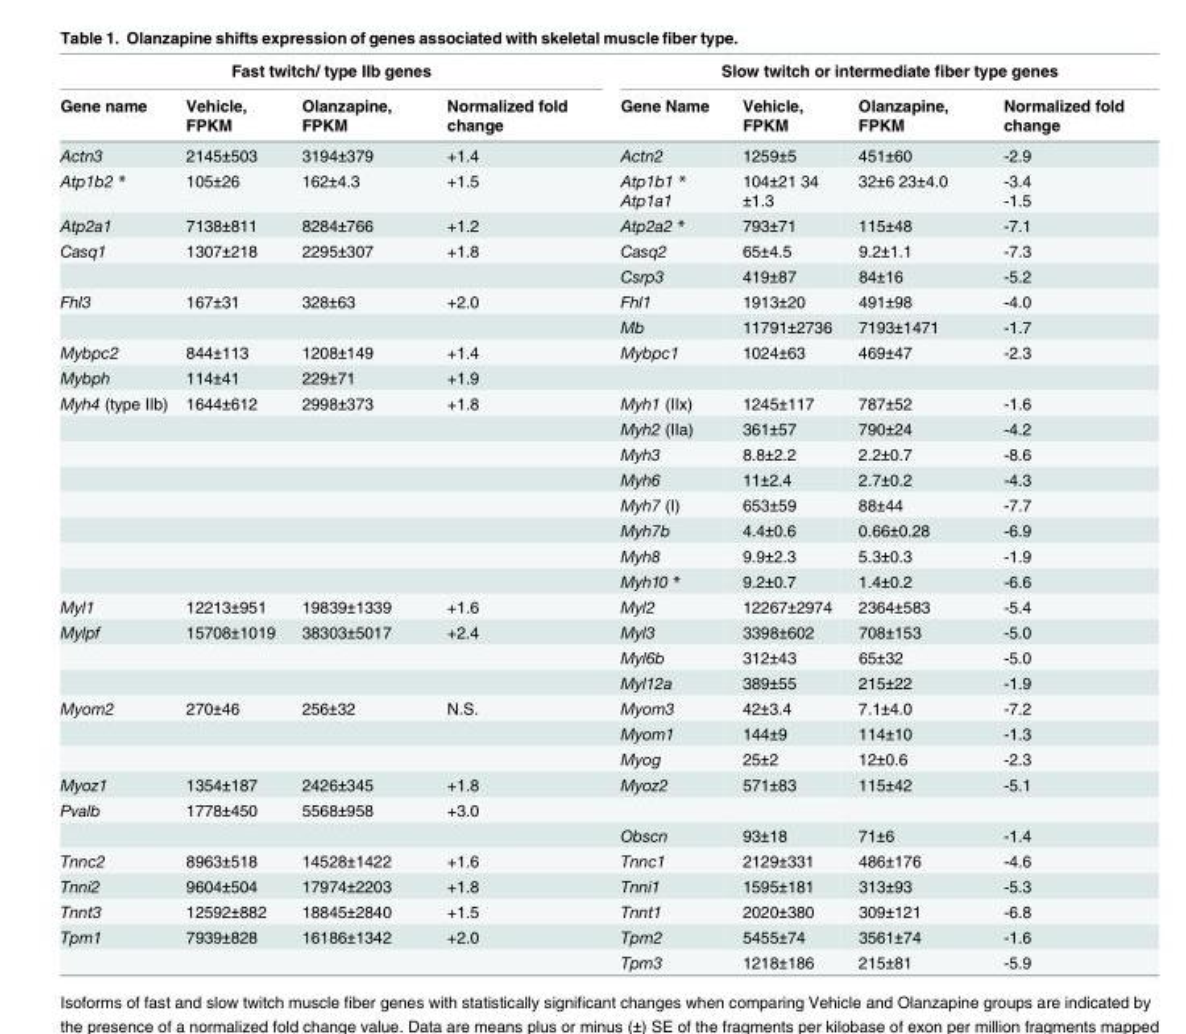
<table><thead><tr><td colspan="4">Fast twitch/ type IIb genes</td><td colspan="4">Slow twitch or intermediate fiber type genes</td></tr><tr><td>Gene name</td><td>Vehicle, FPKM</td><td>Olanzapine, FPKM</td><td>Normalized fold change</td><td>Gene Name</td><td>Vehicle, FPKM</td><td>Olanzapine, FPKM</td><td>Normalized fold change</td></tr></thead><tbody><tr><td>Actn3</td><td>2145±503</td><td>3194±379</td><td>+1.4</td><td>Actn2</td><td>1259±5</td><td>451±60</td><td>-2.9</td></tr><tr><td>Atp1b2 *</td><td>105±26</td><td>162±4.3</td><td>+1.5</td><td>Atp1b1 * Atp1a1</td><td>104±21 34 ±1.3</td><td>32±6 23±4.0</td><td>-3.4 -1.5</td></tr><tr><td>Atp2a1</td><td>7138±811</td><td>8284±766</td><td>+1.2</td><td>Atp2a2 *</td><td>793±71</td><td>115±48</td><td>-7.1</td></tr><tr><td rowspan="2">Casq1</td><td>1307±218</td><td>2295±307</td><td>+1.8</td><td>Casq2</td><td>65±4.5</td><td>9.2±1.1</td><td>-7.3</td></tr><tr><td></td><td></td><td></td><td>Csrp3</td><td>419±87</td><td>84±16</td><td>-5.2</td></tr><tr><td rowspan="2">Fhl3</td><td>167±31</td><td>328±63</td><td>+2.0</td><td>Fhl1</td><td>1913±20</td><td>491±98</td><td>-4.0</td></tr><tr><td></td><td></td><td></td><td>Mb</td><td>11791±2736</td><td>7193±1471</td><td>-1.7</td></tr><tr><td>Mybpc2</td><td>844±113</td><td>1208±149</td><td>+1.4</td><td>Mybpc1</td><td>1024±63</td><td>469±47</td><td>-2.3</td></tr><tr><td>Mybph</td><td>114±41</td><td>229±71</td><td>+1.9</td><td></td><td></td><td></td><td></td></tr><tr><td rowspan="8">Myh4 (type IIb)</td><td>1644±612</td><td>2998±373</td><td>+1.8</td><td>Myh1 (IIx)</td><td>1245±117</td><td>787±52</td><td>-1.6</td></tr><tr><td></td><td></td><td></td><td>Myh2 (IIa)</td><td>361±57</td><td>790±24</td><td>-4.2</td></tr><tr><td></td><td></td><td></td><td>Myh3</td><td>8.8±2.2</td><td>2.2±0.7</td><td>-8.6</td></tr><tr><td></td><td></td><td></td><td>Myh6</td><td>11±2.4</td><td>2.7±0.2</td><td>-4.3</td></tr><tr><td></td><td></td><td></td><td>Myh7 (I)</td><td>653±59</td><td>88±44</td><td>-7.7</td></tr><tr><td></td><td></td><td></td><td>Myh7b</td><td>4.4±0.6</td><td>0.66±0.28</td><td>-6.9</td></tr><tr><td></td><td></td><td></td><td>Myh8</td><td>9.9±2.3</td><td>5.3±0.3</td><td>-1.9</td></tr><tr><td></td><td></td><td></td><td>Myh10 *</td><td>9.2±0.7</td><td>1.4±0.2</td><td>-6.6</td></tr><tr><td>Myl1</td><td>12213±951</td><td>19839±1339</td><td>+1.6</td><td>Myl2</td><td>12267±2974</td><td>2364±583</td><td>-5.4</td></tr><tr><td rowspan="3">Mylpf</td><td>15708±1019</td><td>38303±5017</td><td>+2.4</td><td>Myl3</td><td>3398±602</td><td>708±153</td><td>-5.0</td></tr><tr><td></td><td></td><td></td><td>Myl6b</td><td>312±43</td><td>65±32</td><td>-5.0</td></tr><tr><td></td><td></td><td></td><td>Myl12a</td><td>389±55</td><td>215±22</td><td>-1.9</td></tr><tr><td rowspan="3">Myom2</td><td>270±46</td><td>256±32</td><td>N.S.</td><td>Myom3</td><td>42±3.4</td><td>7.1±4.0</td><td>-7.2</td></tr><tr><td></td><td></td><td></td><td>Myom1</td><td>144±9</td><td>114±10</td><td>-1.3</td></tr><tr><td></td><td></td><td></td><td>Myog</td><td>25±2</td><td>12±0.6</td><td>-2.3</td></tr><tr><td>Myoz1</td><td>1354±187</td><td>2426±345</td><td>+1.8</td><td>Myoz2</td><td>571±83</td><td>115±42</td><td>-5.1</td></tr><tr><td rowspan="2">Pvalb</td><td>1778±450</td><td>5568±958</td><td>+3.0</td><td></td><td></td><td></td><td></td></tr><tr><td></td><td></td><td></td><td>Obscn</td><td>93±18</td><td>71±6</td><td>-1.4</td></tr><tr><td>Tnnc2</td><td>8963±518</td><td>14528±1422</td><td>+1.6</td><td>Tnnc1</td><td>2129±331</td><td>486±176</td><td>-4.6</td></tr><tr><td>Tnni2</td><td>9604±504</td><td>17974±2203</td><td>+1.8</td><td>Tnni1</td><td>1595±181</td><td>313±93</td><td>-5.3</td></tr><tr><td>Tnnt3</td><td>12592±882</td><td>18845±2840</td><td>+1.5</td><td>Tnnt1</td><td>2020±380</td><td>309±121</td><td>-6.8</td></tr><tr><td rowspan="2">Tpm1</td><td>7939±828</td><td>16186±1342</td><td>+2.0</td><td>Tpm2</td><td>5455±74</td><td>3561±74</td><td>-1.6</td></tr><tr><td></td><td></td><td></td><td>Tpm3</td><td>1218±186</td><td>215±81</td><td>-5.9</td></tr></tbody></table>